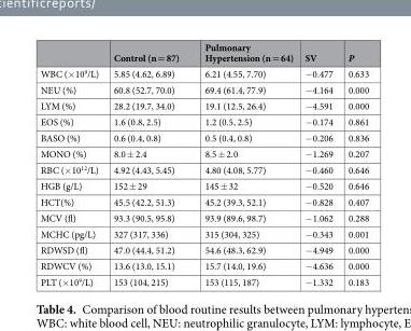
<table><thead><tr><td></td><td>Control (n = 87)</td><td>Pulmonary Hypertension (n = 64)</td><td>SV</td><td>P</td></tr></thead><tbody><tr><td>WBC (×10<sup>9</sup>/L)</td><td>5.85 (4.62, 6.89)</td><td>6.21 (4.55, 7.70)</td><td>−0.477</td><td>0.633</td></tr><tr><td>NEU (%)</td><td>60.8 (52.7, 70.0)</td><td>69.4 (61.4, 77.9)</td><td>−4.164</td><td>0.000</td></tr><tr><td>LYM (%)</td><td>28.2 (19.7, 34.0)</td><td>19.1 (12.5, 26.4)</td><td>−4.591</td><td>0.000</td></tr><tr><td>EOS (%)</td><td>1.6 (0.8, 2.5)</td><td>1.2 (0.5, 2.5)</td><td>−0.174</td><td>0.861</td></tr><tr><td>BASO (%)</td><td>0.6 (0.4, 0.8)</td><td>0.5 (0.4, 0.8)</td><td>−0.206</td><td>0.836</td></tr><tr><td>MONO (%)</td><td>8.0 ± 2.4</td><td>8.5 ± 2.0</td><td>−1.269</td><td>0.207</td></tr><tr><td>RBC (×10<sup>12</sup>/L)</td><td>4.92 (4.43, 5.45)</td><td>4.80 (4.08, 5.77)</td><td>−0.460</td><td>0.646</td></tr><tr><td>HGB (g/L)</td><td>152 ± 29</td><td>145 ± 32</td><td>−0.520</td><td>0.646</td></tr><tr><td>HCT(%)</td><td>45.5 (42.2, 51.3)</td><td>45.2 (39.3, 52.1)</td><td>−0.828</td><td>0.407</td></tr><tr><td>MCV (fl)</td><td>93.3 (90.5, 95.8)</td><td>93.9 (89.6, 98.7)</td><td>−1.062</td><td>0.288</td></tr><tr><td>MCHC (pg/L)</td><td>327 (317, 336)</td><td>315 (304, 325)</td><td>−0.343</td><td>0.001</td></tr><tr><td>RDWSD (fl)</td><td>47.0 (44.4, 51.2)</td><td>54.6 (48.3, 62.9)</td><td>−4.949</td><td>0.000</td></tr><tr><td>RDWCV (%)</td><td>13.6 (13.0, 15.1)</td><td>15.7 (14.0, 19.6)</td><td>−4.636</td><td>0.000</td></tr><tr><td>PLT (×10<sup>9</sup>/L)</td><td>153 (104, 215)</td><td>153 (115, 187)</td><td>−1.332</td><td>0.183</td></tr></tbody></table>